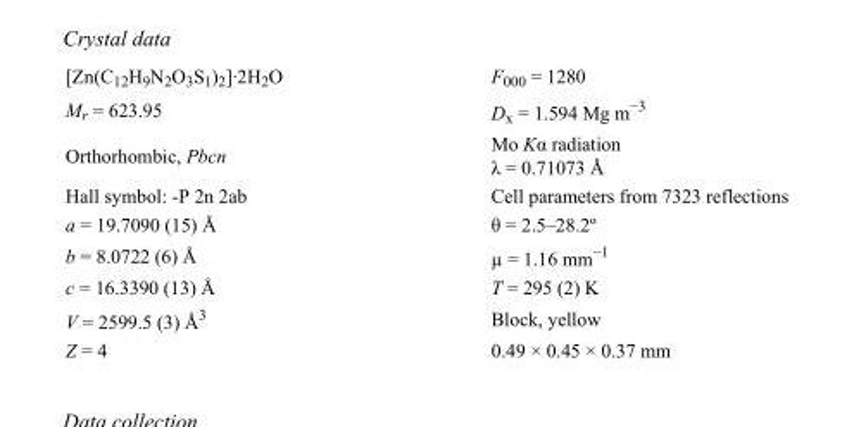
<table><tbody><tr><td>[Zn(C<sub>12</sub>H<sub>9</sub>N<sub>2</sub>O<sub>3</sub>S<sub>1</sub>)<sub>2</sub>]·2H<sub>2</sub>O</td><td>F<sub>000</sub> = 1280</td></tr><tr><td>M<sub>r</sub> = 623.95</td><td>D<sub>x</sub> = 1.594 Mg m<sup>−3</sup></td></tr><tr><td>Orthorhombic, Pbcn</td><td>Mo Kα radiation λ = 0.71073 Å</td></tr><tr><td>Hall symbol: -P 2n 2ab</td><td>Cell parameters from 7323 reflections</td></tr><tr><td>a = 19.7090 (15) Å</td><td>θ = 2.5–28.2º</td></tr><tr><td>b = 8.0722 (6) Å</td><td>µ = 1.16 mm<sup>−1</sup></td></tr><tr><td>c = 16.3390 (13) Å</td><td>T = 295 (2) K</td></tr><tr><td>V = 2599.5 (3) Å<sup>3</sup></td><td>Block, yellow</td></tr><tr><td>Z = 4</td><td>0.49 × 0.45 × 0.37 mm</td></tr></tbody></table>